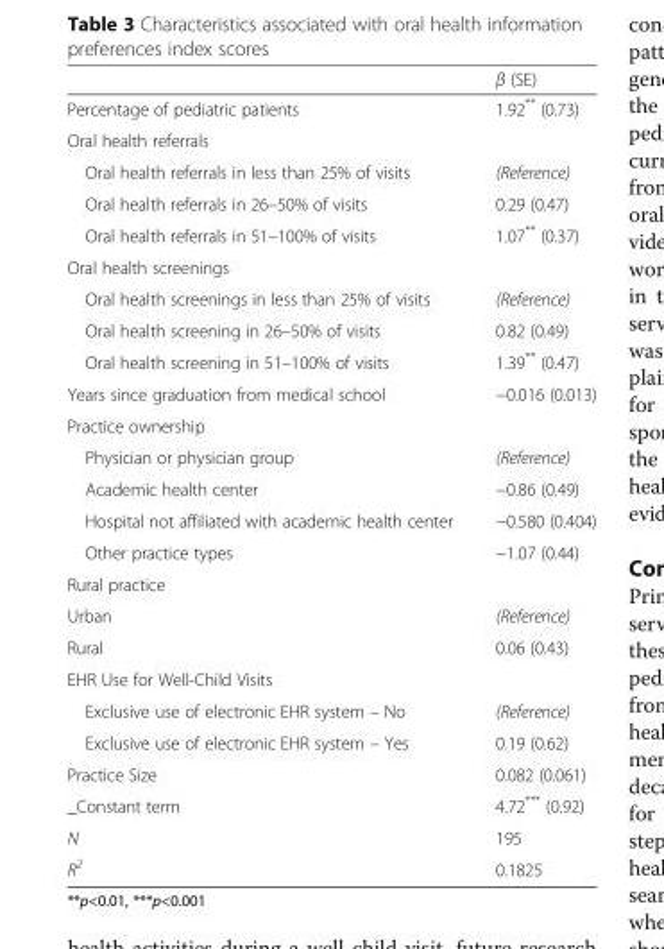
<table><thead><tr><td></td><td>β (SE)</td></tr></thead><tbody><tr><td>Percentage of pediatric patients</td><td>1.92** (0.73)</td></tr><tr><td colspan="2">Oral health referrals</td></tr><tr><td>Oral health referrals in less than 25% of visits</td><td>(Reference)</td></tr><tr><td>Oral health referrals in 26–50% of visits</td><td>0.29 (0.47)</td></tr><tr><td>Oral health referrals in 51–100% of visits</td><td>1.07** (0.37)</td></tr><tr><td colspan="2">Oral health screenings</td></tr><tr><td>Oral health screenings in less than 25% of visits</td><td>(Reference)</td></tr><tr><td>Oral health screening in 26–50% of visits</td><td>0.82 (0.49)</td></tr><tr><td>Oral health screening in 51–100% of visits</td><td>1.39** (0.47)</td></tr><tr><td>Years since graduation from medical school</td><td>−0.016 (0.013)</td></tr><tr><td colspan="2">Practice ownership</td></tr><tr><td>Physician or physician group</td><td>(Reference)</td></tr><tr><td>Academic health center</td><td>−0.86 (0.49)</td></tr><tr><td>Hospital not affiliated with academic health center</td><td>−0.580 (0.404)</td></tr><tr><td>Other practice types</td><td>−1.07 (0.44)</td></tr><tr><td colspan="2">Rural practice</td></tr><tr><td>Urban</td><td>(Reference)</td></tr><tr><td>Rural</td><td>0.06 (0.43)</td></tr><tr><td colspan="2">EHR Use for Well-Child Visits</td></tr><tr><td>Exclusive use of electronic EHR system – No</td><td>(Reference)</td></tr><tr><td>Exclusive use of electronic EHR system – Yes</td><td>0.19 (0.62)</td></tr><tr><td>Practice Size</td><td>0.082 (0.061)</td></tr><tr><td>_Constant term</td><td>4.72*** (0.92)</td></tr><tr><td>N</td><td>195</td></tr><tr><td>R<sup>2</sup></td><td>0.1825</td></tr></tbody></table>